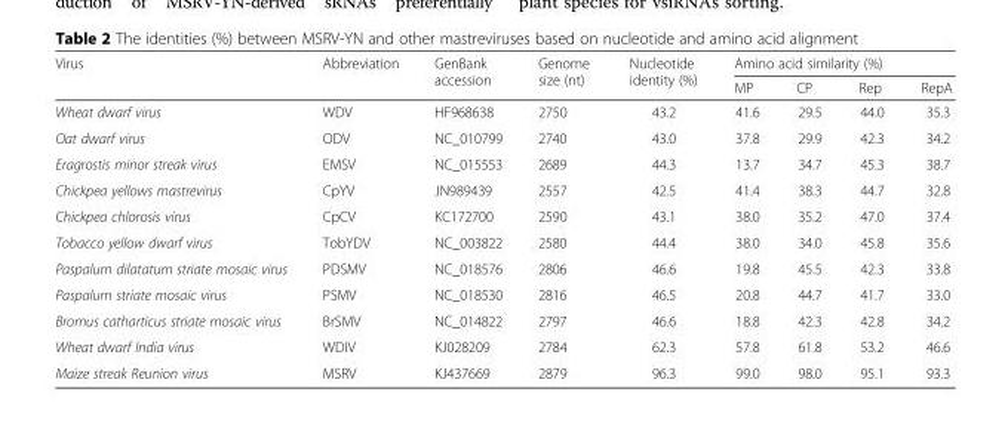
<table><thead><tr><td rowspan="2">Virus</td><td rowspan="2">Abbreviation</td><td rowspan="2">GenBank accession</td><td rowspan="2">Genome size (nt)</td><td rowspan="2">Nucleotide identity (%)</td><td colspan="4">Amino acid similarity (%)</td></tr><tr><td>MP</td><td>CP</td><td>Rep</td><td>RepA</td></tr></thead><tbody><tr><td>Wheat dwarf virus</td><td>WDV</td><td>HF968638</td><td>2750</td><td>43.2</td><td>41.6</td><td>29.5</td><td>44.0</td><td>35.3</td></tr><tr><td>Oat dwarf virus</td><td>ODV</td><td>NC_010799</td><td>2740</td><td>43.0</td><td>37.8</td><td>29.9</td><td>42.3</td><td>34.2</td></tr><tr><td>Eragrostis minor streak virus</td><td>EMSV</td><td>NC_015553</td><td>2689</td><td>44.3</td><td>13.7</td><td>34.7</td><td>45.3</td><td>38.7</td></tr><tr><td>Chickpea yellows mastrevirus</td><td>CpYV</td><td>JN989439</td><td>2557</td><td>42.5</td><td>41.4</td><td>38.3</td><td>44.7</td><td>32.8</td></tr><tr><td>Chickpea chlorosis virus</td><td>CpCV</td><td>KC172700</td><td>2590</td><td>43.1</td><td>38.0</td><td>35.2</td><td>47.0</td><td>37.4</td></tr><tr><td>Tobacco yellow dwarf virus</td><td>TobYDV</td><td>NC_003822</td><td>2580</td><td>44.4</td><td>38.0</td><td>34.0</td><td>45.8</td><td>35.6</td></tr><tr><td>Paspalum dilatatum striate mosaic virus</td><td>PDSMV</td><td>NC_018576</td><td>2806</td><td>46.6</td><td>19.8</td><td>45.5</td><td>42.3</td><td>33.8</td></tr><tr><td>Paspalum striate mosaic virus</td><td>PSMV</td><td>NC_018530</td><td>2816</td><td>46.5</td><td>20.8</td><td>44.7</td><td>41.7</td><td>33.0</td></tr><tr><td>Bromus catharticus striate mosaic virus</td><td>BrSMV</td><td>NC_014822</td><td>2797</td><td>46.6</td><td>18.8</td><td>42.3</td><td>42.8</td><td>34.2</td></tr><tr><td>Wheat dwarf India virus</td><td>WDIV</td><td>KJ028209</td><td>2784</td><td>62.3</td><td>57.8</td><td>61.8</td><td>53.2</td><td>46.6</td></tr><tr><td>Maize streak Reunion virus</td><td>MSRV</td><td>KJ437669</td><td>2879</td><td>96.3</td><td>99.0</td><td>98.0</td><td>95.1</td><td>93.3</td></tr></tbody></table>